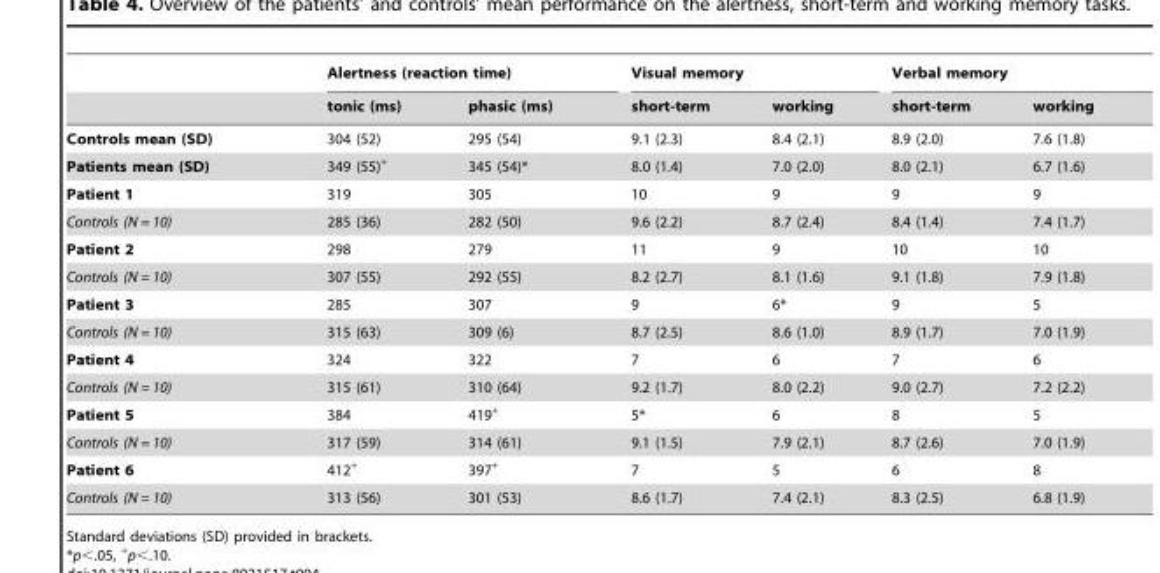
<table><thead><tr><td rowspan="2"></td><td colspan="2">Alertness (reaction time)</td><td colspan="2">Visual memory</td><td colspan="2">Verbal memory</td></tr><tr><td>tonic (ms)</td><td>phasic (ms)</td><td>short-term</td><td>working</td><td>short-term</td><td>working</td></tr></thead><tbody><tr><td>Controls mean (SD)</td><td>304 (52)</td><td>295 (54)</td><td>9.1 (2.3)</td><td>8.4 (2.1)</td><td>8.9 (2.0)</td><td>7.6 (1.8)</td></tr><tr><td>Patients mean (SD)</td><td>349 (55)<sup>+</sup></td><td>345 (54)*</td><td>8.0 (1.4)</td><td>7.0 (2.0)</td><td>8.0 (2.1)</td><td>6.7 (1.6)</td></tr><tr><td>Patient 1</td><td>319</td><td>305</td><td>10</td><td>9</td><td>9</td><td>9</td></tr><tr><td>Controls (N = 10)</td><td>285 (36)</td><td>282 (50)</td><td>9.6 (2.2)</td><td>8.7 (2.4)</td><td>8.4 (1.4)</td><td>7.4 (1.7)</td></tr><tr><td>Patient 2</td><td>298</td><td>279</td><td>11</td><td>9</td><td>10</td><td>10</td></tr><tr><td>Controls (N = 10)</td><td>307 (55)</td><td>292 (55)</td><td>8.2 (2.7)</td><td>8.1 (1.6)</td><td>9.1 (1.8)</td><td>7.9 (1.8)</td></tr><tr><td>Patient 3</td><td>285</td><td>307</td><td>9</td><td>6*</td><td>9</td><td>5</td></tr><tr><td>Controls (N = 10)</td><td>315 (63)</td><td>309 (6)</td><td>8.7 (2.5)</td><td>8.6 (1.0)</td><td>8.9 (1.7)</td><td>7.0 (1.9)</td></tr><tr><td>Patient 4</td><td>324</td><td>322</td><td>7</td><td>6</td><td>7</td><td>6</td></tr><tr><td>Controls (N = 10)</td><td>315 (61)</td><td>310 (64)</td><td>9.2 (1.7)</td><td>8.0 (2.2)</td><td>9.0 (2.7)</td><td>7.2 (2.2)</td></tr><tr><td>Patient 5</td><td>384</td><td>419<sup>+</sup></td><td>5*</td><td>6</td><td>8</td><td>5</td></tr><tr><td>Controls (N = 10)</td><td>317 (59)</td><td>314 (61)</td><td>9.1 (1.5)</td><td>7.9 (2.1)</td><td>8.7 (2.6)</td><td>7.0 (1.9)</td></tr><tr><td>Patient 6</td><td>412<sup>+</sup></td><td>397<sup>+</sup></td><td>7</td><td>5</td><td>6</td><td>8</td></tr><tr><td>Controls (N = 10)</td><td>313 (56)</td><td>301 (53)</td><td>8.6 (1.7)</td><td>7.4 (2.1)</td><td>8.3 (2.5)</td><td>6.8 (1.9)</td></tr></tbody></table>